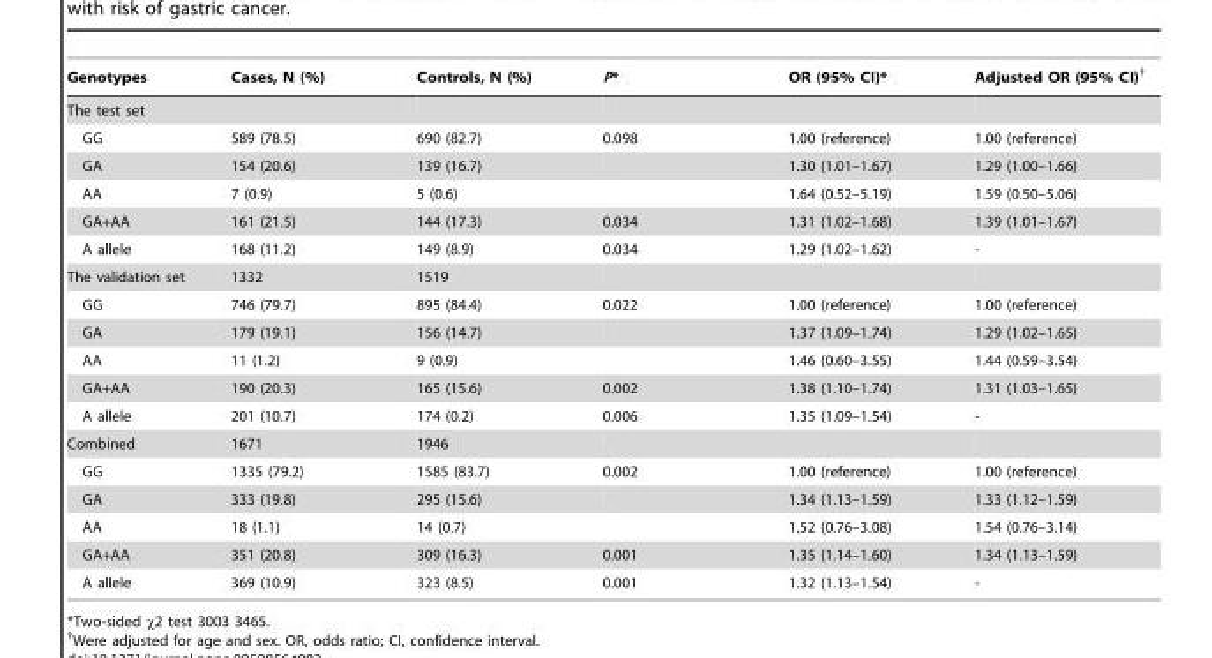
<table><thead><tr><td>Genotypes</td><td>Cases, N (%)</td><td>Controls, N (%)</td><td>P*</td><td>OR (95% CI)*</td><td>Adjusted OR (95% CI)†</td></tr></thead><tbody><tr><td colspan="6">The test set</td></tr><tr><td>GG</td><td>589 (78.5)</td><td>690 (82.7)</td><td>0.098</td><td>1.00 (reference)</td><td>1.00 (reference)</td></tr><tr><td>GA</td><td>154 (20.6)</td><td>139 (16.7)</td><td></td><td>1.30 (1.01–1.67)</td><td>1.29 (1.00–1.66)</td></tr><tr><td>AA</td><td>7 (0.9)</td><td>5 (0.6)</td><td></td><td>1.64 (0.52–5.19)</td><td>1.59 (0.50–5.06)</td></tr><tr><td>GA+AA</td><td>161 (21.5)</td><td>144 (17.3)</td><td>0.034</td><td>1.31 (1.02–1.68)</td><td>1.39 (1.01–1.67)</td></tr><tr><td>A allele</td><td>168 (11.2)</td><td>149 (8.9)</td><td>0.034</td><td>1.29 (1.02–1.62)</td><td>-</td></tr><tr><td>The validation set</td><td>1332</td><td>1519</td><td></td><td></td><td></td></tr><tr><td>GG</td><td>746 (79.7)</td><td>895 (84.4)</td><td>0.022</td><td>1.00 (reference)</td><td>1.00 (reference)</td></tr><tr><td>GA</td><td>179 (19.1)</td><td>156 (14.7)</td><td></td><td>1.37 (1.09–1.74)</td><td>1.29 (1.02–1.65)</td></tr><tr><td>AA</td><td>11 (1.2)</td><td>9 (0.9)</td><td></td><td>1.46 (0.60–3.55)</td><td>1.44 (0.59–3.54)</td></tr><tr><td>GA+AA</td><td>190 (20.3)</td><td>165 (15.6)</td><td>0.002</td><td>1.38 (1.10–1.74)</td><td>1.31 (1.03–1.65)</td></tr><tr><td>A allele</td><td>201 (10.7)</td><td>174 (0.2)</td><td>0.006</td><td>1.35 (1.09–1.54)</td><td>-</td></tr><tr><td>Combined</td><td>1671</td><td>1946</td><td></td><td></td><td></td></tr><tr><td>GG</td><td>1335 (79.2)</td><td>1585 (83.7)</td><td>0.002</td><td>1.00 (reference)</td><td>1.00 (reference)</td></tr><tr><td>GA</td><td>333 (19.8)</td><td>295 (15.6)</td><td></td><td>1.34 (1.13–1.59)</td><td>1.33 (1.12–1.59)</td></tr><tr><td>AA</td><td>18 (1.1)</td><td>14 (0.7)</td><td></td><td>1.52 (0.76–3.08)</td><td>1.54 (0.76–3.14)</td></tr><tr><td>GA+AA</td><td>351 (20.8)</td><td>309 (16.3)</td><td>0.001</td><td>1.35 (1.14–1.60)</td><td>1.34 (1.13–1.59)</td></tr><tr><td>A allele</td><td>369 (10.9)</td><td>323 (8.5)</td><td>0.001</td><td>1.32 (1.13–1.54)</td><td>-</td></tr></tbody></table>